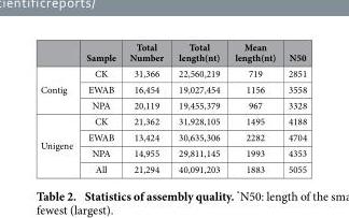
<table><thead><tr><td></td><td>Sample</td><td>Total Number</td><td>Total length(nt)</td><td>Mean length(nt)</td><td>N50</td></tr></thead><tbody><tr><td rowspan="3">Contig</td><td>CK</td><td>31,366</td><td>22,560,219</td><td>719</td><td>2851</td></tr><tr><td>EWAB</td><td>16,454</td><td>19,027,454</td><td>1156</td><td>3558</td></tr><tr><td>NPA</td><td>20,119</td><td>19,455,379</td><td>967</td><td>3328</td></tr><tr><td rowspan="4">Unigene</td><td>CK</td><td>21,362</td><td>31,928,105</td><td>1495</td><td>4188</td></tr><tr><td>EWAB</td><td>13,424</td><td>30,635,306</td><td>2282</td><td>4704</td></tr><tr><td>NPA</td><td>14,955</td><td>29,811,145</td><td>1993</td><td>4353</td></tr><tr><td>All</td><td>21,294</td><td>40,091,203</td><td>1883</td><td>5055</td></tr></tbody></table>